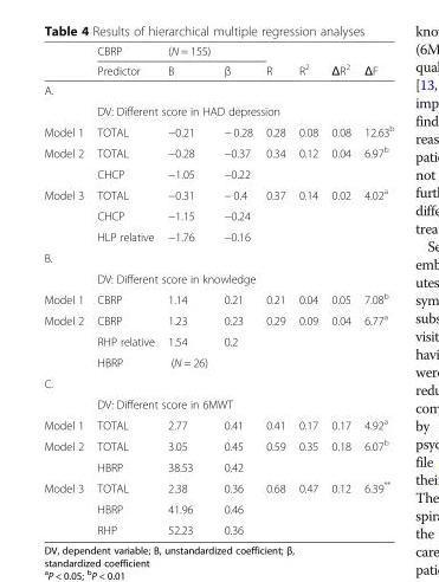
<table><thead><tr><td rowspan="2"></td><td rowspan="2">CBRP Predictor</td><td rowspan="2">(N = 155) B</td><td rowspan="2">β</td><td rowspan="2">R</td><td rowspan="2">R<sup>2</sup></td><td rowspan="2">ΔR<sup>2</sup></td><td rowspan="2">ΔF</td></tr><tr></tr></thead><tbody><tr><td colspan="8">A.</td></tr><tr><td></td><td colspan="7">DV: Different score in HAD depression</td></tr><tr><td>Model 1</td><td>TOTAL</td><td>−0.21</td><td>− 0.28</td><td>0.28</td><td>0.08</td><td>0.08</td><td>12.63<sup>b</sup></td></tr><tr><td rowspan="2">Model 2</td><td>TOTAL</td><td>−0.28</td><td>−0.37</td><td>0.34</td><td>0.12</td><td>0.04</td><td>6.97<sup>b</sup></td></tr><tr><td>CHCP</td><td>−1.05</td><td>−0.22</td><td></td><td></td><td></td><td></td></tr><tr><td rowspan="3">Model 3</td><td>TOTAL</td><td>−0.31</td><td>− 0.4</td><td>0.37</td><td>0.14</td><td>0.02</td><td>4.02<sup>a</sup></td></tr><tr><td>CHCP</td><td>−1.15</td><td>−0.24</td><td></td><td></td><td></td><td></td></tr><tr><td>HLP relative</td><td>−1.76</td><td>−0.16</td><td></td><td></td><td></td><td></td></tr><tr><td colspan="8">B.</td></tr><tr><td></td><td colspan="7">DV: Different score in knowledge</td></tr><tr><td>Model 1</td><td>CBRP</td><td>1.14</td><td>0.21</td><td>0.21</td><td>0.04</td><td>0.05</td><td>7.08<sup>b</sup></td></tr><tr><td rowspan="3">Model 2</td><td>CBRP</td><td>1.23</td><td>0.23</td><td>0.29</td><td>0.09</td><td>0.04</td><td>6.77<sup>a</sup></td></tr><tr><td>RHP relative</td><td>1.54</td><td>0.2</td><td></td><td></td><td></td><td></td></tr><tr><td>HBRP</td><td>(N = 26)</td><td></td><td></td><td></td><td></td><td></td></tr><tr><td colspan="8">C.</td></tr><tr><td></td><td colspan="7">DV: Different score in 6MWT</td></tr><tr><td>Model 1</td><td>TOTAL</td><td>2.77</td><td>0.41</td><td>0.41</td><td>0.17</td><td>0.17</td><td>4.92<sup>a</sup></td></tr><tr><td rowspan="2">Model 2</td><td>TOTAL</td><td>3.05</td><td>0.45</td><td>0.59</td><td>0.35</td><td>0.18</td><td>6.07<sup>b</sup></td></tr><tr><td>HBRP</td><td>38.53</td><td>0.42</td><td></td><td></td><td></td><td></td></tr><tr><td rowspan="3">Model 3</td><td>TOTAL</td><td>2.38</td><td>0.36</td><td>0.68</td><td>0.47</td><td>0.12</td><td>6.39**</td></tr><tr><td>HBRP</td><td>41.96</td><td>0.46</td><td></td><td></td><td></td><td></td></tr><tr><td>RHP</td><td>52.23</td><td>0.36</td><td></td><td></td><td></td><td></td></tr></tbody></table>